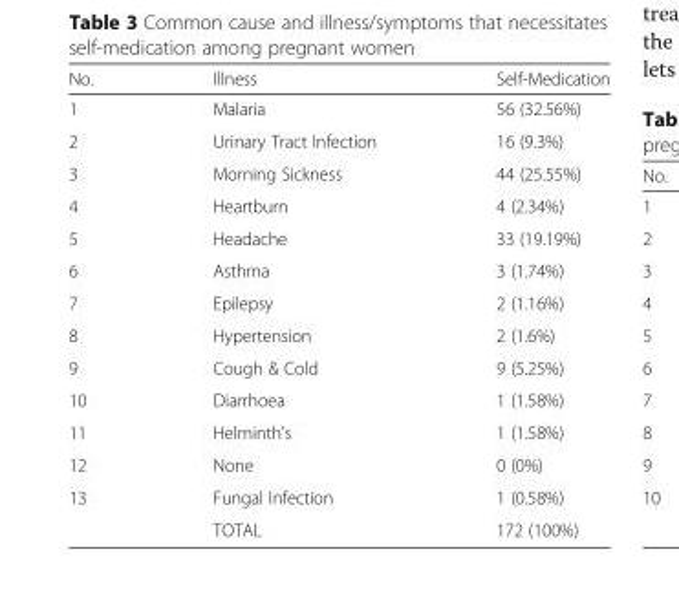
<table><thead><tr><td>No.</td><td>Illness</td><td>Self-Medication</td></tr></thead><tbody><tr><td>1</td><td>Malaria</td><td>56 (32.56%)</td></tr><tr><td>2</td><td>Urinary Tract Infection</td><td>16 (9.3%)</td></tr><tr><td>3</td><td>Morning Sickness</td><td>44 (25.55%)</td></tr><tr><td>4</td><td>Heartburn</td><td>4 (2.34%)</td></tr><tr><td>5</td><td>Headache</td><td>33 (19.19%)</td></tr><tr><td>6</td><td>Asthma</td><td>3 (1.74%)</td></tr><tr><td>7</td><td>Epilepsy</td><td>2 (1.16%)</td></tr><tr><td>8</td><td>Hypertension</td><td>2 (1.6%)</td></tr><tr><td>9</td><td>Cough &amp; Cold</td><td>9 (5.25%)</td></tr><tr><td>10</td><td>Diarrhoea</td><td>1 (1.58%)</td></tr><tr><td>11</td><td>Helminth’s</td><td>1 (1.58%)</td></tr><tr><td>12</td><td>None</td><td>0 (0%)</td></tr><tr><td rowspan="2">13</td><td>Fungal Infection</td><td>1 (0.58%)</td></tr><tr><td>TOTAL</td><td>172 (100%)</td></tr></tbody></table>